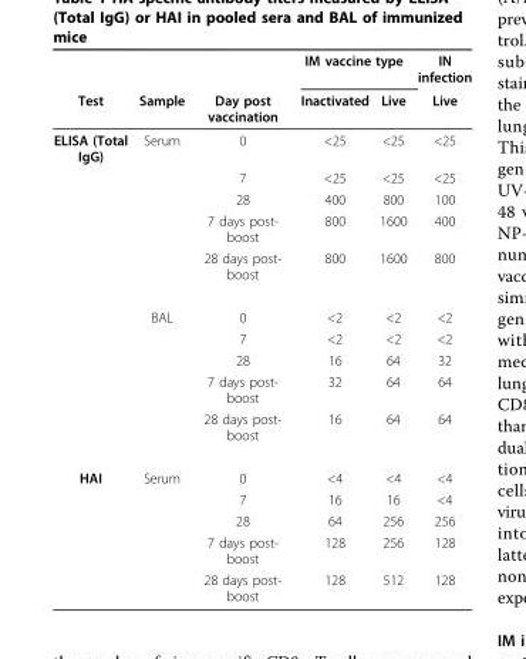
<table><thead><tr><td rowspan="2">Test</td><td rowspan="2">Sample</td><td rowspan="2">Day post vaccination</td><td colspan="2">IM vaccine type</td><td rowspan="2">IN infection Live</td></tr><tr><td>Inactivated</td><td>Live</td></tr></thead><tbody><tr><td rowspan="10">ELISA (Total IgG)</td><td>Serum</td><td>0</td><td>&lt;25</td><td>&lt;25</td><td>&lt;25</td></tr><tr><td></td><td>7</td><td>&lt;25</td><td>&lt;25</td><td>&lt;25</td></tr><tr><td></td><td>28</td><td>400</td><td>800</td><td>100</td></tr><tr><td></td><td>7 days post- boost</td><td>800</td><td>1600</td><td>400</td></tr><tr><td></td><td>28 days post- boost</td><td>800</td><td>1600</td><td>800</td></tr><tr><td>BAL</td><td>0</td><td>&lt;2</td><td>&lt;2</td><td>&lt;2</td></tr><tr><td></td><td>7</td><td>&lt;2</td><td>&lt;2</td><td>&lt;2</td></tr><tr><td></td><td>28</td><td>16</td><td>64</td><td>32</td></tr><tr><td></td><td>7 days post- boost</td><td>32</td><td>64</td><td>64</td></tr><tr><td></td><td>28 days post- boost</td><td>16</td><td>64</td><td>64</td></tr><tr><td rowspan="5">HAI</td><td>Serum</td><td>0</td><td>&lt;4</td><td>&lt;4</td><td>&lt;4</td></tr><tr><td></td><td>7</td><td>16</td><td>16</td><td>&lt;4</td></tr><tr><td></td><td>28</td><td>64</td><td>256</td><td>256</td></tr><tr><td></td><td>7 days post- boost</td><td>128</td><td>256</td><td>128</td></tr><tr><td></td><td>28 days post- boost</td><td>128</td><td>512</td><td>128</td></tr></tbody></table>